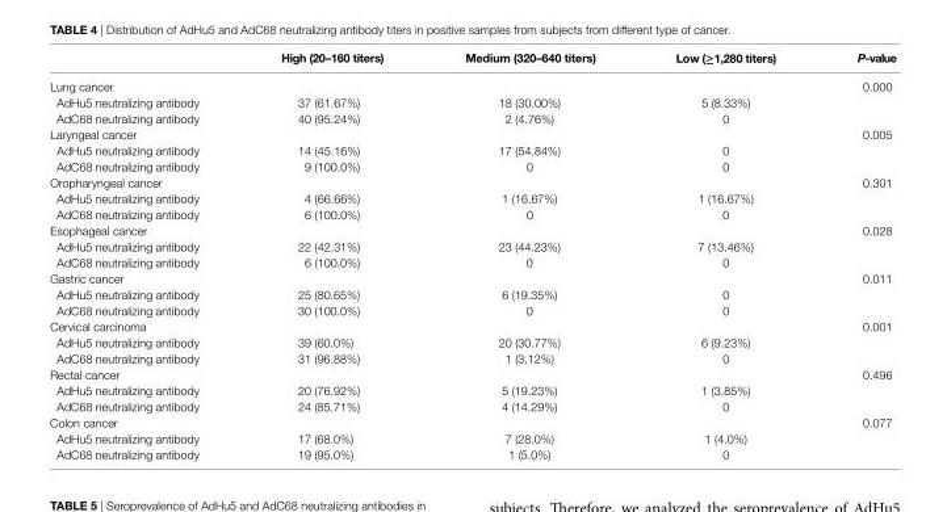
<table><thead><tr><td></td><td>high (20–160 titers)</td><td>Medium (320–640 titers)</td><td>low (≥1,280 titers)</td><td>P-value</td></tr></thead><tbody><tr><td>Lung cancer</td><td></td><td></td><td></td><td>0.000</td></tr><tr><td>AdHu5 neutralizing antibody</td><td>37 (61.67%)</td><td>18 (30.00%)</td><td>5 (8.33%)</td><td></td></tr><tr><td>AdC68 neutralizing antibody</td><td>40 (95.24%)</td><td>2 (4.76%)</td><td>0</td><td></td></tr><tr><td>Laryngeal cancer</td><td></td><td></td><td></td><td>0.005</td></tr><tr><td>AdHu5 neutralizing antibody</td><td>14 (45.16%)</td><td>17 (54.84%)</td><td>0</td><td></td></tr><tr><td>AdC68 neutralizing antibody</td><td>9 (100.0%)</td><td>0</td><td>0</td><td></td></tr><tr><td>Oropharyngeal cancer</td><td></td><td></td><td></td><td>0.301</td></tr><tr><td>AdHu5 neutralizing antibody</td><td>4 (66.66%)</td><td>1 (16.67%)</td><td>1 (16.67%)</td><td></td></tr><tr><td>AdC68 neutralizing antibody</td><td>6 (100.0%)</td><td>0</td><td>0</td><td></td></tr><tr><td>Esophageal cancer</td><td></td><td></td><td></td><td>0.028</td></tr><tr><td>AdHu5 neutralizing antibody</td><td>22 (42.31%)</td><td>23 (44.23%)</td><td>7 (13.46%)</td><td></td></tr><tr><td>AdC68 neutralizing antibody</td><td>6 (100.0%)</td><td>0</td><td>0</td><td></td></tr><tr><td>Gastric cancer</td><td></td><td></td><td></td><td>0.011</td></tr><tr><td>AdHu5 neutralizing antibody</td><td>25 (80.65%)</td><td>6 (19.35%)</td><td>0</td><td></td></tr><tr><td>AdC68 neutralizing antibody</td><td>30 (100.0%)</td><td>0</td><td>0</td><td></td></tr><tr><td>Cervical carcinoma</td><td></td><td></td><td></td><td>0.001</td></tr><tr><td>AdHu5 neutralizing antibody</td><td>39 (60.0%)</td><td>20 (30.77%)</td><td>6 (9.23%)</td><td></td></tr><tr><td>AdC68 neutralizing antibody</td><td>31 (96.88%)</td><td>1 (3.12%)</td><td>0</td><td></td></tr><tr><td>Rectal cancer</td><td></td><td></td><td></td><td>0.496</td></tr><tr><td>AdHu5 neutralizing antibody</td><td>20 (76.92%)</td><td>5 (19.23%)</td><td>1 (3.85%)</td><td></td></tr><tr><td>AdC68 neutralizing antibody</td><td>24 (85.71%)</td><td>4 (14.29%)</td><td>0</td><td></td></tr><tr><td>Colon cancer</td><td></td><td></td><td></td><td>0.077</td></tr><tr><td>AdHu5 neutralizing antibody</td><td>17 (68.0%)</td><td>7 (28.0%)</td><td>1 (4.0%)</td><td></td></tr><tr><td>AdC68 neutralizing antibody</td><td>19 (95.0%)</td><td>1 (5.0%)</td><td>0</td><td></td></tr></tbody></table>